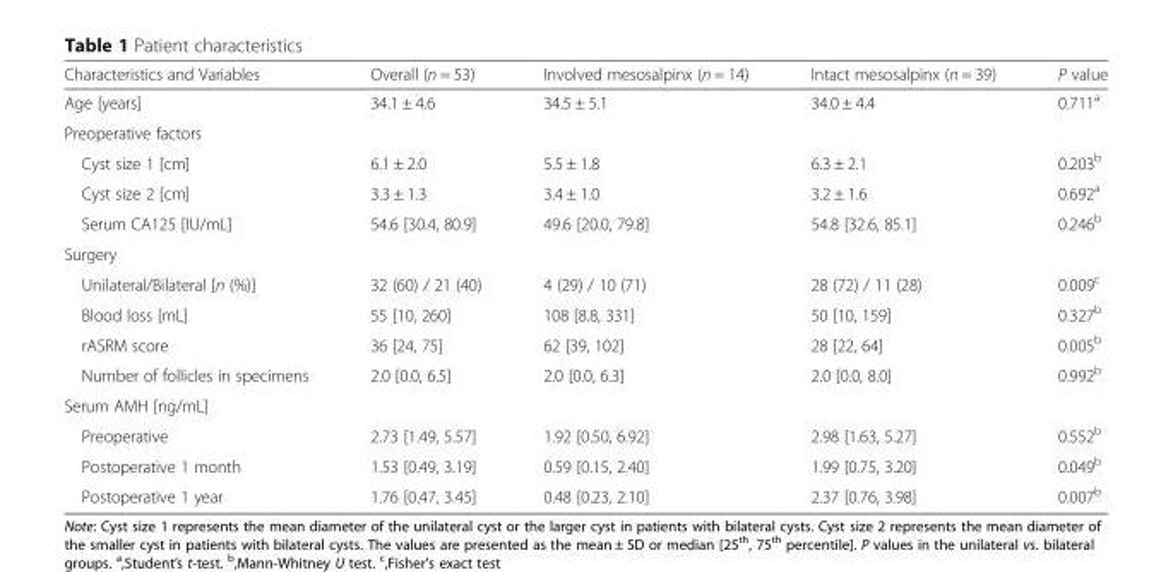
<table><thead><tr><td>Characteristics and Variables</td><td>Overall (n = 53)</td><td>Involved mesosalpinx (n = 14)</td><td>Intact mesosalpinx (n = 39)</td><td>P value</td></tr></thead><tbody><tr><td>Age [years]</td><td>34.1 ± 4.6</td><td>34.5 ± 5.1</td><td>34.0 ± 4.4</td><td>0.711<sup>a</sup></td></tr><tr><td colspan="5">Preoperative factors</td></tr><tr><td>Cyst size 1 [cm]</td><td>6.1 ± 2.0</td><td>5.5 ± 1.8</td><td>6.3 ± 2.1</td><td>0.203<sup>b</sup></td></tr><tr><td>Cyst size 2 [cm]</td><td>3.3 ± 1.3</td><td>3.4 ± 1.0</td><td>3.2 ± 1.6</td><td>0.692<sup>a</sup></td></tr><tr><td>Serum CA125 [IU/mL]</td><td>54.6 [30.4, 80.9]</td><td>49.6 [20.0, 79.8]</td><td>54.8 [32.6, 85.1]</td><td>0.246<sup>b</sup></td></tr><tr><td colspan="5">Surgery</td></tr><tr><td>Unilateral/Bilateral [n (%)]</td><td>32 (60) / 21 (40)</td><td>4 (29) / 10 (71)</td><td>28 (72) / 11 (28)</td><td>0.009<sup>c</sup></td></tr><tr><td>Blood loss [mL]</td><td>55 [10, 260]</td><td>108 [8.8, 331]</td><td>50 [10, 159]</td><td>0.327<sup>b</sup></td></tr><tr><td>rASRM score</td><td>36 [24, 75]</td><td>62 [39, 102]</td><td>28 [22, 64]</td><td>0.005<sup>b</sup></td></tr><tr><td>Number of follicles in specimens</td><td>2.0 [0.0, 6.5]</td><td>2.0 [0.0, 6.3]</td><td>2.0 [0.0, 8.0]</td><td>0.992<sup>b</sup></td></tr><tr><td colspan="5">Serum AMH [ng/mL]</td></tr><tr><td>Preoperative</td><td>2.73 [1.49, 5.57]</td><td>1.92 [0.50, 6.92]</td><td>2.98 [1.63, 5.27]</td><td>0.552<sup>b</sup></td></tr><tr><td>Postoperative 1 month</td><td>1.53 [0.49, 3.19]</td><td>0.59 [0.15, 2.40]</td><td>1.99 [0.75, 3.20]</td><td>0.049<sup>b</sup></td></tr><tr><td>Postoperative 1 year</td><td>1.76 [0.47, 3.45]</td><td>0.48 [0.23, 2.10]</td><td>2.37 [0.76, 3.98]</td><td>0.007<sup>b</sup></td></tr></tbody></table>